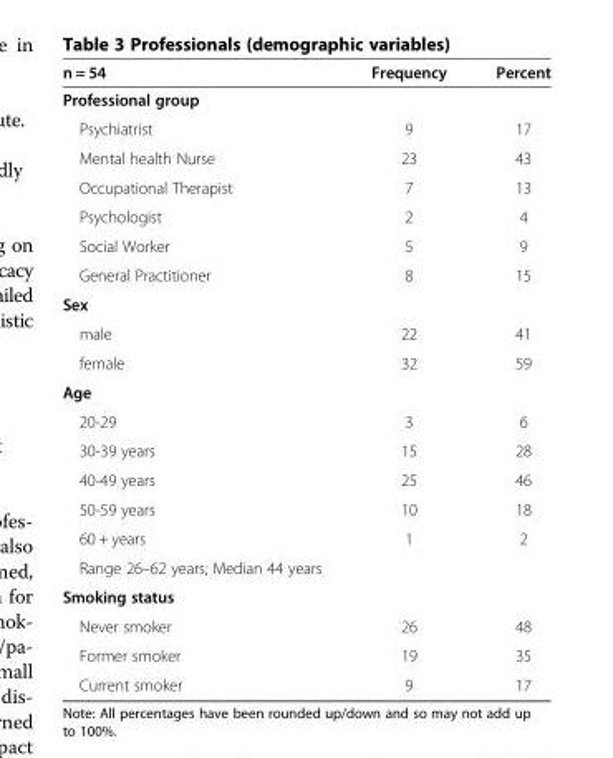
<table><thead><tr><td>n = 54</td><td>Frequency</td><td>Percent</td></tr></thead><tbody><tr><td colspan="3">Professional group</td></tr><tr><td>Psychiatrist</td><td>9</td><td>17</td></tr><tr><td>Mental health Nurse</td><td>23</td><td>43</td></tr><tr><td>Occupational Therapist</td><td>7</td><td>13</td></tr><tr><td>Psychologist</td><td>2</td><td>4</td></tr><tr><td>Social Worker</td><td>5</td><td>9</td></tr><tr><td>General Practitioner</td><td>8</td><td>15</td></tr><tr><td colspan="3">Sex</td></tr><tr><td>male</td><td>22</td><td>41</td></tr><tr><td>female</td><td>32</td><td>59</td></tr><tr><td colspan="3">Age</td></tr><tr><td>20-29</td><td>3</td><td>6</td></tr><tr><td>30-39 years</td><td>15</td><td>28</td></tr><tr><td>40-49 years</td><td>25</td><td>46</td></tr><tr><td>50-59 years</td><td>10</td><td>18</td></tr><tr><td>60 + years</td><td rowspan="2">1</td><td rowspan="2">2</td></tr><tr><td>Range 26–62 years; Median 44 years</td></tr><tr><td colspan="3">Smoking status</td></tr><tr><td>Never smoker</td><td>26</td><td>48</td></tr><tr><td>Former smoker</td><td>19</td><td>35</td></tr><tr><td>Current smoker</td><td>9</td><td>17</td></tr></tbody></table>